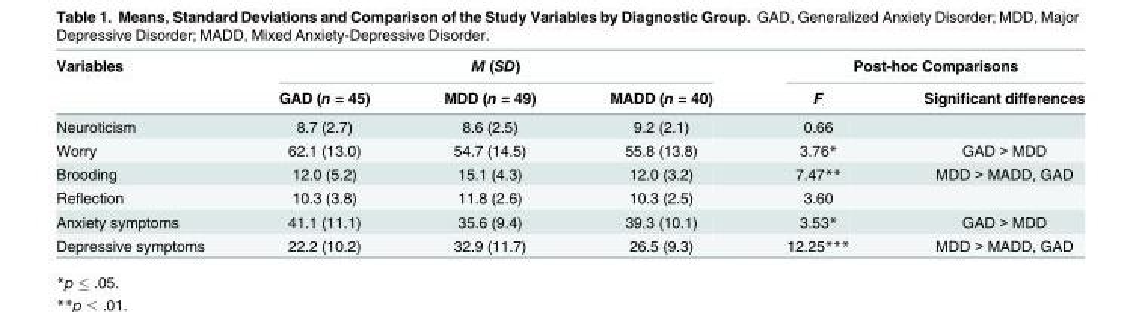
<table><thead><tr><td rowspan="2">Variables</td><td colspan="3">M (SD)</td><td colspan="2">Post-hoc Comparisons</td></tr><tr><td>GAD (n = 45)</td><td>MDD (n = 49)</td><td>MADD (n = 40)</td><td>F</td><td>Significant differences</td></tr></thead><tbody><tr><td>Neuroticism</td><td>8.7 (2.7)</td><td>8.6 (2.5)</td><td>9.2 (2.1)</td><td>0.66</td><td></td></tr><tr><td>Worry</td><td>62.1 (13.0)</td><td>54.7 (14.5)</td><td>55.8 (13.8)</td><td>3.76*</td><td>GAD &gt; MDD</td></tr><tr><td>Brooding</td><td>12.0 (5.2)</td><td>15.1 (4.3)</td><td>12.0 (3.2)</td><td>7.47**</td><td>MDD &gt; MADD, GAD</td></tr><tr><td>Reflection</td><td>10.3 (3.8)</td><td>11.8 (2.6)</td><td>10.3 (2.5)</td><td>3.60</td><td></td></tr><tr><td>Anxiety symptoms</td><td>41.1 (11.1)</td><td>35.6 (9.4)</td><td>39.3 (10.1)</td><td>3.53*</td><td>GAD &gt; MDD</td></tr><tr><td>Depressive symptoms</td><td>22.2 (10.2)</td><td>32.9 (11.7)</td><td>26.5 (9.3)</td><td>12.25***</td><td>MDD &gt; MADD, GAD</td></tr></tbody></table>